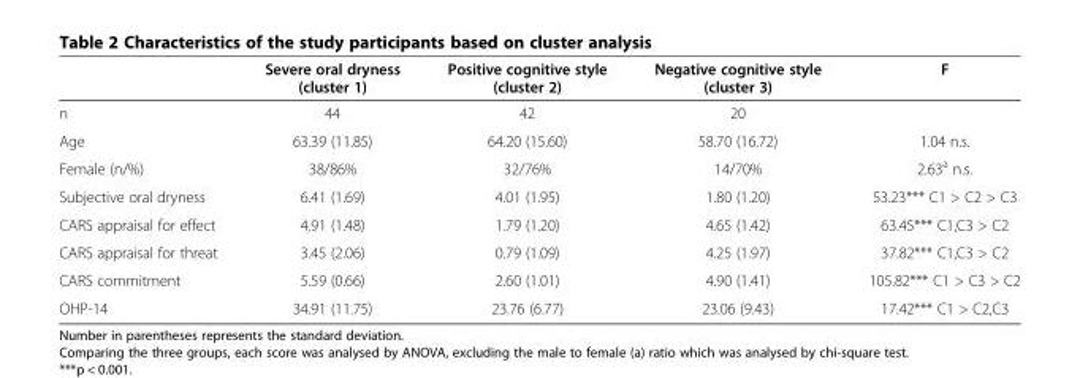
<table><thead><tr><td></td><td>Severe oral dryness (cluster 1)</td><td>Positive cognitive style (cluster 2)</td><td>Negative cognitive style (cluster 3)</td><td>F</td></tr></thead><tbody><tr><td>n</td><td>44</td><td>42</td><td>20</td><td></td></tr><tr><td>Age</td><td>63.39 (11.85)</td><td>64.20 (15.60)</td><td>58.70 (16.72)</td><td>1.04 n.s.</td></tr><tr><td>Female (n/%)</td><td>38/86%</td><td>32/76%</td><td>14/70%</td><td>2.63<sup>a</sup> n.s.</td></tr><tr><td>Subjective oral dryness</td><td>6.41 (1.69)</td><td>4.01 (1.95)</td><td>1.80 (1.20)</td><td>53.23*** C1 &gt; C2 &gt; C3</td></tr><tr><td>CARS appraisal for effect</td><td>4.91 (1.48)</td><td>1.79 (1.20)</td><td>4.65 (1.42)</td><td>63.45*** C1,C3 &gt; C2</td></tr><tr><td>CARS appraisal for threat</td><td>3.45 (2.06)</td><td>0.79 (1.09)</td><td>4.25 (1.97)</td><td>37.82*** C1,C3 &gt; C2</td></tr><tr><td>CARS commitment</td><td>5.59 (0.66)</td><td>2.60 (1.01)</td><td>4.90 (1.41)</td><td>105.82*** C1 &gt; C3 &gt; C2</td></tr><tr><td>OHP-14</td><td>34.91 (11.75)</td><td>23.76 (6.77)</td><td>23.06 (9.43)</td><td>17.42*** C1 &gt; C2,C3</td></tr></tbody></table>